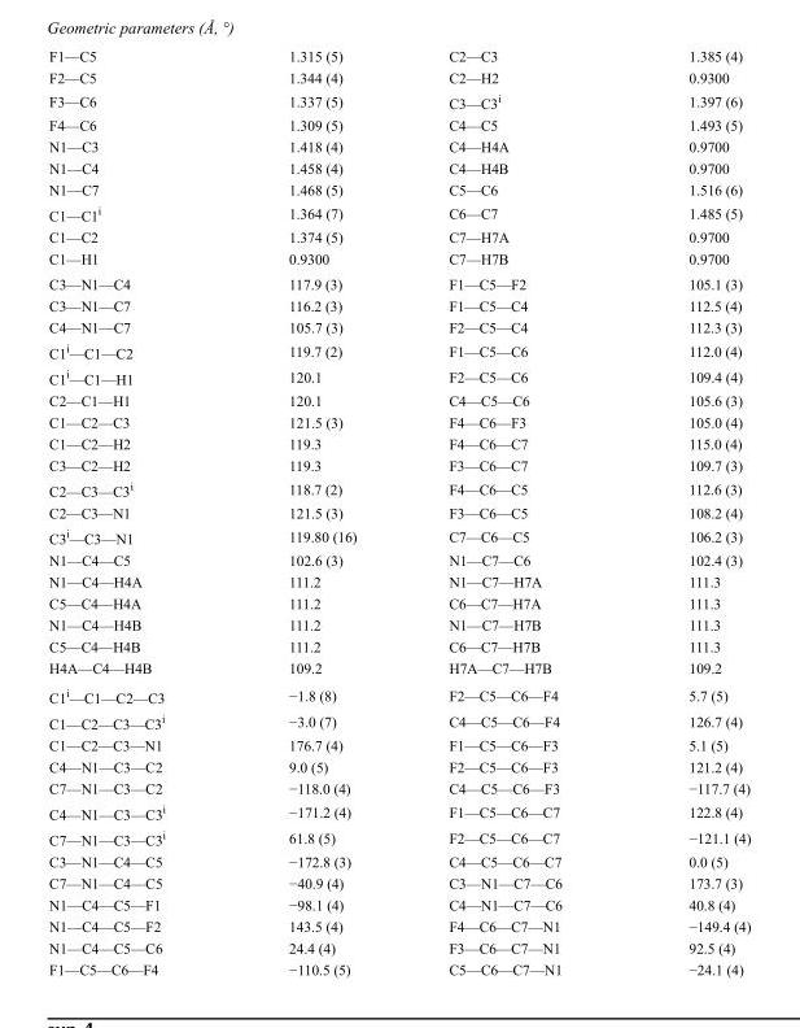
<table><tbody><tr><td>F1—C5</td><td>1.315 (5)</td><td>C2—C3</td><td>1.385 (4)</td></tr><tr><td>F2—C5</td><td>1.344 (4)</td><td>C2—H2</td><td>0.9300</td></tr><tr><td>F3—C6</td><td>1.337 (5)</td><td>C3—C3<sup>i</sup></td><td>1.397 (6)</td></tr><tr><td>F4—C6</td><td>1.309 (5)</td><td>C4—C5</td><td>1.493 (5)</td></tr><tr><td>N1—C3</td><td>1.418 (4)</td><td>C4—H4A</td><td>0.9700</td></tr><tr><td>N1—C4</td><td>1.458 (4)</td><td>C4—H4B</td><td>0.9700</td></tr><tr><td>N1—C7</td><td>1.468 (5)</td><td>C5—C6</td><td>1.516 (6)</td></tr><tr><td>C1—C1<sup>i</sup></td><td>1.364 (7)</td><td>C6—C7</td><td>1.485 (5)</td></tr><tr><td>C1—C2</td><td>1.374 (5)</td><td>C7—H7A</td><td>0.9700</td></tr><tr><td>C1—H1</td><td>0.9300</td><td>C7—H7B</td><td>0.9700</td></tr><tr><td>C3—N1—C4</td><td>117.9 (3)</td><td>F1—C5—F2</td><td>105.1 (3)</td></tr><tr><td>C3—N1—C7</td><td>116.2 (3)</td><td>F1—C5—C4</td><td>112.5 (4)</td></tr><tr><td>C4—N1—C7</td><td>105.7 (3)</td><td>F2—C5—C4</td><td>112.3 (3)</td></tr><tr><td>C1<sup>i</sup>—C1—C2</td><td>119.7 (2)</td><td>F1—C5—C6</td><td>112.0 (4)</td></tr><tr><td>C1<sup>i</sup>—C1—H1</td><td>120.1</td><td>F2—C5—C6</td><td>109.4 (4)</td></tr><tr><td>C2—C1—H1</td><td>120.1</td><td>C4—C5—C6</td><td>105.6 (3)</td></tr><tr><td>C1—C2—C3</td><td>121.5 (3)</td><td>F4—C6—F3</td><td>105.0 (4)</td></tr><tr><td>C1—C2—H2</td><td>119.3</td><td>F4—C6—C7</td><td>115.0 (4)</td></tr><tr><td>C3—C2—H2</td><td>119.3</td><td>F3—C6—C7</td><td>109.7 (3)</td></tr><tr><td>C2—C3—C3<sup>i</sup></td><td>118.7 (2)</td><td>F4—C6—C5</td><td>112.6 (3)</td></tr><tr><td>C2—C3—N1</td><td>121.5 (3)</td><td>F3—C6—C5</td><td>108.2 (4)</td></tr><tr><td>C3<sup>i</sup>—C3—N1</td><td>119.80 (16)</td><td>C7—C6—C5</td><td>106.2 (3)</td></tr><tr><td>N1—C4—C5</td><td>102.6 (3)</td><td>N1—C7—C6</td><td>102.4 (3)</td></tr><tr><td>N1—C4—H4A</td><td>111.2</td><td>N1—C7—H7A</td><td>111.3</td></tr><tr><td>C5—C4—H4A</td><td>111.2</td><td>C6—C7—H7A</td><td>111.3</td></tr><tr><td>N1—C4—H4B</td><td>111.2</td><td>N1—C7—H7B</td><td>111.3</td></tr><tr><td>C5—C4—H4B</td><td>111.2</td><td>C6—C7—H7B</td><td>111.3</td></tr><tr><td>H4A—C4—H4B</td><td>109.2</td><td>H7A—C7—H7B</td><td>109.2</td></tr><tr><td>C1<sup>i</sup>—C1—C2—C3</td><td>−1.8 (8)</td><td>F2—C5—C6—F4</td><td>5.7 (5)</td></tr><tr><td>C1—C2—C3—C3<sup>i</sup></td><td>−3.0 (7)</td><td>C4—C5—C6—F4</td><td>126.7 (4)</td></tr><tr><td>C1—C2—C3—N1</td><td>176.7 (4)</td><td>F1—C5—C6—F3</td><td>5.1 (5)</td></tr><tr><td>C4—N1—C3—C2</td><td>9.0 (5)</td><td>F2—C5—C6—F3</td><td>121.2 (4)</td></tr><tr><td>C7—N1—C3—C2</td><td>−118.0 (4)</td><td>C4—C5—C6—F3</td><td>−117.7 (4)</td></tr><tr><td>C4—N1—C3—C3<sup>i</sup></td><td>−171.2 (4)</td><td>F1—C5—C6—C7</td><td>122.8 (4)</td></tr><tr><td>C7—N1—C3—C3<sup>i</sup></td><td>61.8 (5)</td><td>F2—C5—C6—C7</td><td>−121.1 (4)</td></tr><tr><td>C3—N1—C4—C5</td><td>−172.8 (3)</td><td>C4—C5—C6—C7</td><td>0.0 (5)</td></tr><tr><td>C7—N1—C4—C5</td><td>−40.9 (4)</td><td>C3—N1—C7—C6</td><td>173.7 (3)</td></tr><tr><td>N1—C4—C5—F1</td><td>−98.1 (4)</td><td>C4—N1—C7—C6</td><td>40.8 (4)</td></tr><tr><td>N1—C4—C5—F2</td><td>143.5 (4)</td><td>F4—C6—C7—N1</td><td>−149.4 (4)</td></tr><tr><td>N1—C4—C5—C6</td><td>24.4 (4)</td><td>F3—C6—C7—N1</td><td>92.5 (4)</td></tr><tr><td>F1—C5—C6—F4</td><td>−110.5 (5)</td><td>C5—C6—C7—N1</td><td>−24.1 (4)</td></tr></tbody></table>